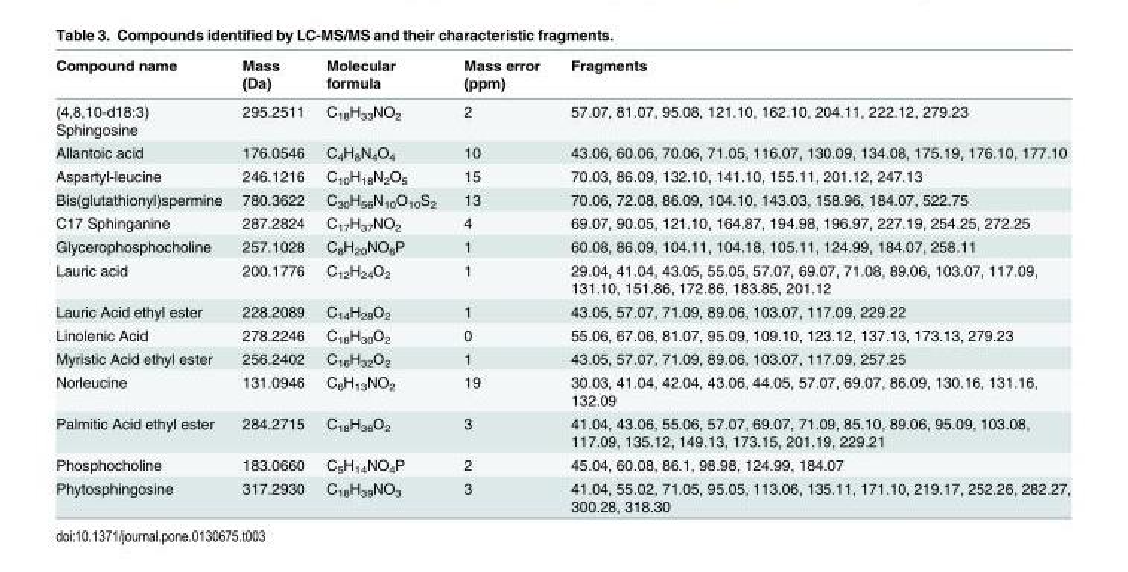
<table><thead><tr><td>Compound name</td><td>Mass (Da)</td><td>Molecular formula</td><td>Mass error (ppm)</td><td>Fragments</td></tr></thead><tbody><tr><td>(4,8,10-d18:3) Sphingosine</td><td>295.2511</td><td>C<sub>18</sub>H<sub>33</sub>NO<sub>2</sub></td><td>2</td><td>57.07, 81.07, 95.08, 121.10, 162.10, 204.11, 222.12, 279.23</td></tr><tr><td>Allantoic acid</td><td>176.0546</td><td>C<sub>4</sub>H<sub>8</sub>N<sub>4</sub>O<sub>4</sub></td><td>10</td><td>43.06, 60.06, 70.06, 71.05, 116.07, 130.09, 134.08, 175.19, 176.10, 177.10</td></tr><tr><td>Aspartyl-leucine</td><td>246.1216</td><td>C<sub>10</sub>H<sub>18</sub>N<sub>2</sub>O<sub>5</sub></td><td>15</td><td>70.03, 86.09, 132.10, 141.10, 155.11, 201.12, 247.13</td></tr><tr><td>Bis(glutathionyl)spermine</td><td>780.3622</td><td>C<sub>30</sub>H<sub>56</sub>N<sub>10</sub>O<sub>10</sub>S<sub>2</sub></td><td>13</td><td>70.06, 72.08, 86.09, 104.10, 143.03, 158.96, 184.07, 522.75</td></tr><tr><td>C17 Sphinganine</td><td>287.2824</td><td>C<sub>17</sub>H<sub>37</sub>NO<sub>2</sub></td><td>4</td><td>69.07, 90.05, 121.10, 164.87, 194.98, 196.97, 227.19, 254.25, 272.25</td></tr><tr><td>Glycerophosphocholine</td><td>257.1028</td><td>C<sub>8</sub>H<sub>20</sub>NO<sub>6</sub>P</td><td>1</td><td>60.08, 86.09, 104.11, 104.18, 105.11, 124.99, 184.07, 258.11</td></tr><tr><td>Lauric acid</td><td>200.1776</td><td>C<sub>12</sub>H<sub>24</sub>O<sub>2</sub></td><td>1</td><td>29.04, 41.04, 43.05, 55.05, 57.07, 69.07, 71.08, 89.06, 103.07, 117.09, 131.10, 151.86, 172.86, 183.85, 201.12</td></tr><tr><td>Lauric Acid ethyl ester</td><td>228.2089</td><td>C<sub>14</sub>H<sub>28</sub>O<sub>2</sub></td><td>1</td><td>43.05, 57.07, 71.09, 89.06, 103.07, 117.09, 229.22</td></tr><tr><td>Linolenic Acid</td><td>278.2246</td><td>C<sub>18</sub>H<sub>30</sub>O<sub>2</sub></td><td>0</td><td>55.06, 67.06, 81.07, 95.09, 109.10, 123.12, 137.13, 173.13, 279.23</td></tr><tr><td>Myristic Acid ethyl ester</td><td>256.2402</td><td>C<sub>16</sub>H<sub>32</sub>O<sub>2</sub></td><td>1</td><td>43.05, 57.07, 71.09, 89.06, 103.07, 117.09, 257.25</td></tr><tr><td>Norleucine</td><td>131.0946</td><td>C<sub>6</sub>H<sub>13</sub>NO<sub>2</sub></td><td>19</td><td>30.03, 41.04, 42.04, 43.06, 44.05, 57.07, 69.07, 86.09, 130.16, 131.16, 132.09</td></tr><tr><td>Palmitic Acid ethyl ester</td><td>284.2715</td><td>C<sub>18</sub>H<sub>36</sub>O<sub>2</sub></td><td>3</td><td>41.04, 43.06, 55.06, 57.07, 69.07, 71.09, 85.10, 89.06, 95.09, 103.08, 117.09, 135.12, 149.13, 173.15, 201.19, 229.21</td></tr><tr><td>Phosphocholine</td><td>183.0660</td><td>C<sub>5</sub>H<sub>14</sub>NO<sub>4</sub>P</td><td>2</td><td>45.04, 60.08, 86.1, 98.98, 124.99, 184.07</td></tr><tr><td>Phytosphingosine</td><td>317.2930</td><td>C<sub>18</sub>H<sub>39</sub>NO<sub>3</sub></td><td>3</td><td>41.04, 55.02, 71.05, 95.05, 113.06, 135.11, 171.10, 219.17, 252.26, 282.27, 300.28, 318.30</td></tr></tbody></table>